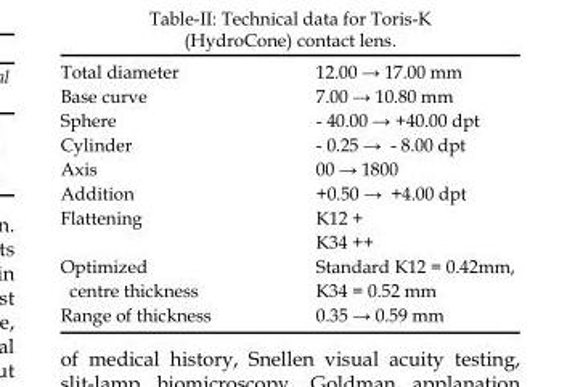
<table><tbody><tr><td>Total diameter</td><td>12.00 → 17.00 mm</td></tr><tr><td>Base curve</td><td>7.00 → 10.80 mm</td></tr><tr><td>Sphere</td><td>- 40.00 → +40.00 dpt</td></tr><tr><td>Cylinder</td><td>- 0.25 → - 8.00 dpt</td></tr><tr><td>Axis</td><td>00 → 1800</td></tr><tr><td>Addition</td><td>+0.50 → +4.00 dpt</td></tr><tr><td>Flattening</td><td>K12 + K34 ++</td></tr><tr><td>Optimized centre thickness</td><td>Standard K12 = 0.42mm, K34 = 0.52 mm</td></tr><tr><td>Range of thickness</td><td>0.35 → 0.59 mm</td></tr></tbody></table>